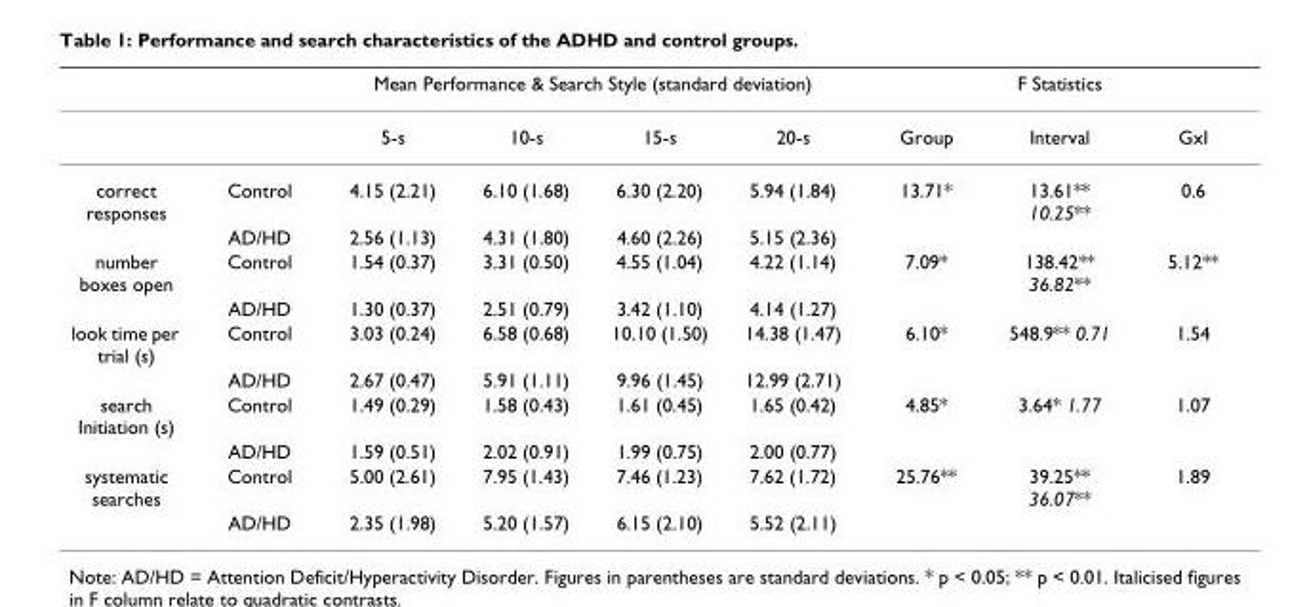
<table><thead><tr><td rowspan="2"></td><td rowspan="2"></td><td colspan="4">Mean Performance &amp; Search Style (standard deviation)</td><td colspan="3">F Statistics</td></tr><tr><td>5-s</td><td>10-s</td><td>15-s</td><td>20-s</td><td>Group</td><td>Interval</td><td>GxI</td></tr></thead><tbody><tr><td rowspan="2">correct responses</td><td>Control</td><td>4.15 (2.21)</td><td>6.10 (1.68)</td><td>6.30 (2.20)</td><td>5.94 (1.84)</td><td>13.71*</td><td>13.61** 10.25**</td><td>0.6</td></tr><tr><td>AD/HD</td><td>2.56 (1.13)</td><td>4.31 (1.80)</td><td>4.60 (2.26)</td><td>5.15 (2.36)</td><td></td><td></td><td></td></tr><tr><td rowspan="2">number boxes open</td><td>Control</td><td>1.54 (0.37)</td><td>3.31 (0.50)</td><td>4.55 (1.04)</td><td>4.22 (1.14)</td><td>7.09*</td><td>138.42** 36.82**</td><td>5.12**</td></tr><tr><td>AD/HD</td><td>1.30 (0.37)</td><td>2.51 (0.79)</td><td>3.42 (1.10)</td><td>4.14 (1.27)</td><td></td><td></td><td></td></tr><tr><td rowspan="2">look time per trial (s)</td><td>Control</td><td>3.03 (0.24)</td><td>6.58 (0.68)</td><td>10.10 (1.50)</td><td>14.38 (1.47)</td><td>6.10*</td><td>548.9** 0.71</td><td>1.54</td></tr><tr><td>AD/HD</td><td>2.67 (0.47)</td><td>5.91 (1.11)</td><td>9.96 (1.45)</td><td>12.99 (2.71)</td><td></td><td></td><td></td></tr><tr><td rowspan="2">search Initiation (s)</td><td>Control</td><td>1.49 (0.29)</td><td>1.58 (0.43)</td><td>1.61 (0.45)</td><td>1.65 (0.42)</td><td>4.85*</td><td>3.64* 1.77</td><td>1.07</td></tr><tr><td>AD/HD</td><td>1.59 (0.51)</td><td>2.02 (0.91)</td><td>1.99 (0.75)</td><td>2.00 (0.77)</td><td></td><td></td><td></td></tr><tr><td rowspan="2">systematic searches</td><td>Control</td><td>5.00 (2.61)</td><td>7.95 (1.43)</td><td>7.46 (1.23)</td><td>7.62 (1.72)</td><td>25.76**</td><td>39.25** 36.07**</td><td>1.89</td></tr><tr><td>AD/HD</td><td>2.35 (1.98)</td><td>5.20 (1.57)</td><td>6.15 (2.10)</td><td>5.52 (2.11)</td><td></td><td></td><td></td></tr></tbody></table>